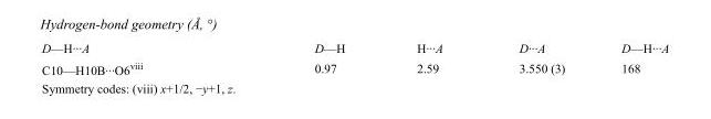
<table><tbody><tr><td>D—H···A</td><td>D—H</td><td>H···A</td><td>D···A</td><td>D—H···A</td></tr><tr><td>C10—H10B···O6<sup>viii</sup></td><td>0.97</td><td>2.59</td><td>3.550 (3)</td><td>168</td></tr></tbody></table>